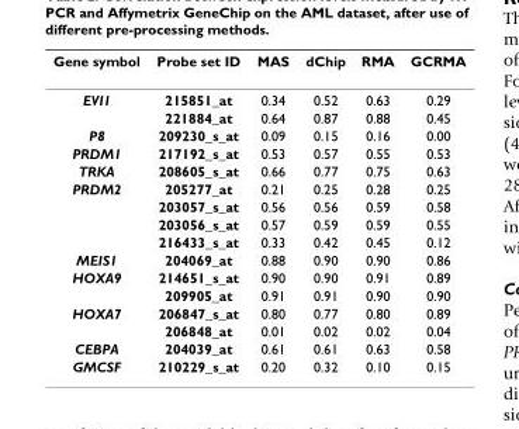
<table><thead><tr><td>Gene symbol</td><td>Probe set ID</td><td>MAS</td><td>dChip</td><td>RMA</td><td>GCRMA</td></tr></thead><tbody><tr><td rowspan="2">EVI1</td><td>215851_at</td><td>0.34</td><td>0.52</td><td>0.63</td><td>0.29</td></tr><tr><td>221884_at</td><td>0.64</td><td>0.87</td><td>0.88</td><td>0.45</td></tr><tr><td>P8</td><td>209230_s_at</td><td>0.09</td><td>0.15</td><td>0.16</td><td>0.00</td></tr><tr><td>PRDM1</td><td>217192_s_at</td><td>0.53</td><td>0.57</td><td>0.55</td><td>0.53</td></tr><tr><td>TRKA</td><td>208605_s_at</td><td>0.66</td><td>0.77</td><td>0.75</td><td>0.63</td></tr><tr><td rowspan="4">PRDM2</td><td>205277_at</td><td>0.21</td><td>0.25</td><td>0.28</td><td>0.25</td></tr><tr><td>203057_s_at</td><td>0.56</td><td>0.56</td><td>0.59</td><td>0.58</td></tr><tr><td>203056_s_at</td><td>0.57</td><td>0.59</td><td>0.59</td><td>0.55</td></tr><tr><td>216433_s_at</td><td>0.33</td><td>0.42</td><td>0.45</td><td>0.12</td></tr><tr><td>MEIS1</td><td>204069_at</td><td>0.88</td><td>0.90</td><td>0.90</td><td>0.86</td></tr><tr><td rowspan="2">HOXA9</td><td>214651_s_at</td><td>0.90</td><td>0.90</td><td>0.91</td><td>0.89</td></tr><tr><td>209905_at</td><td>0.91</td><td>0.91</td><td>0.90</td><td>0.90</td></tr><tr><td rowspan="2">HOXA7</td><td>206847_s_at</td><td>0.80</td><td>0.77</td><td>0.80</td><td>0.89</td></tr><tr><td>206848_at</td><td>0.01</td><td>0.02</td><td>0.02</td><td>0.04</td></tr><tr><td>CEBPA</td><td>204039_at</td><td>0.61</td><td>0.61</td><td>0.63</td><td>0.58</td></tr><tr><td>GMCSF</td><td>210229_s_at</td><td>0.20</td><td>0.32</td><td>0.10</td><td>0.15</td></tr></tbody></table>